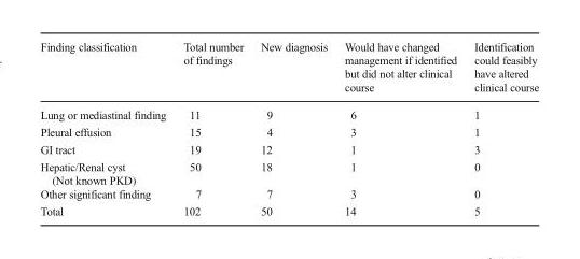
<table><thead><tr><td>Finding classification</td><td>Total number of findings</td><td>New diagnosis</td><td>Would have changed management if identified but did not alter clinical course</td><td>Identification could feasibly have altered clinical course</td></tr></thead><tbody><tr><td>Lung or mediastinal finding</td><td>11</td><td>9</td><td>6</td><td>1</td></tr><tr><td>Pleural effusion</td><td>15</td><td>4</td><td>3</td><td>1</td></tr><tr><td>GI tract</td><td>19</td><td>12</td><td>1</td><td>3</td></tr><tr><td>Hepatic/Renal cyst (Not known PKD)</td><td>50</td><td>18</td><td>1</td><td>0</td></tr><tr><td>Other significant finding</td><td>7</td><td>7</td><td>3</td><td>0</td></tr><tr><td>Total</td><td>102</td><td>50</td><td>14</td><td>5</td></tr></tbody></table>